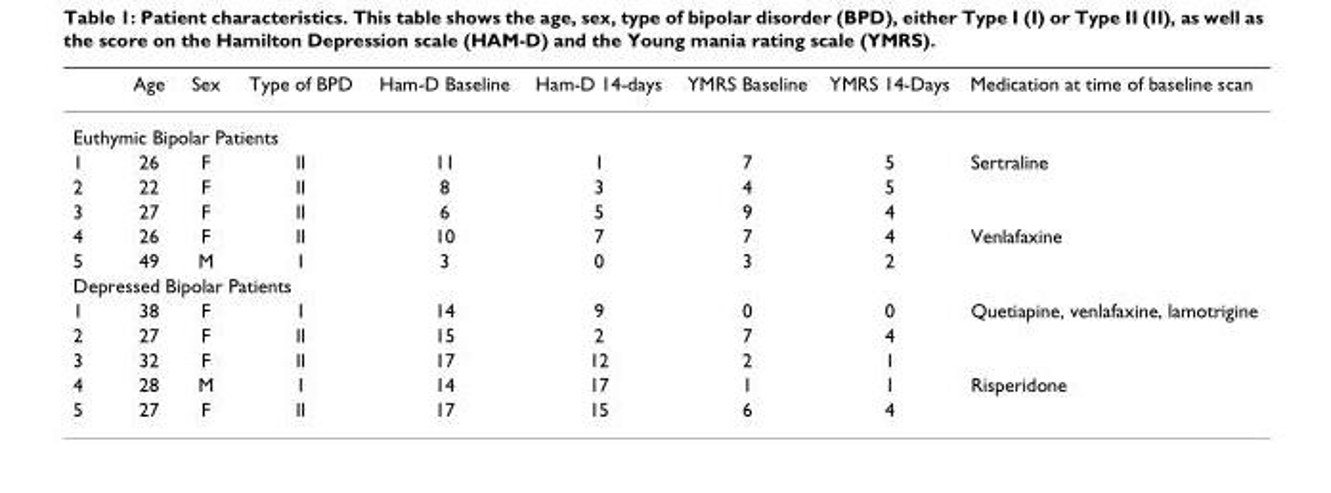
<table><thead><tr><td></td><td>Age</td><td>Sex</td><td>Type of BPD</td><td>Ham-D Baseline</td><td>Ham-D 14-days</td><td>YMRS Baseline</td><td>YMRS 14-Days</td><td>Medication at time of baseline scan</td></tr></thead><tbody><tr><td colspan="9">Euthymic Bipolar Patients</td></tr><tr><td>1</td><td>26</td><td>F</td><td>II</td><td>11</td><td>1</td><td>7</td><td>5</td><td>Sertraline</td></tr><tr><td>2</td><td>22</td><td>F</td><td>II</td><td>8</td><td>3</td><td>4</td><td>5</td><td></td></tr><tr><td>3</td><td>27</td><td>F</td><td>II</td><td>6</td><td>5</td><td>9</td><td>4</td><td></td></tr><tr><td>4</td><td>26</td><td>F</td><td>II</td><td>10</td><td>7</td><td>7</td><td>4</td><td>Venlafaxine</td></tr><tr><td>5</td><td>49</td><td>M</td><td>I</td><td>3</td><td>0</td><td>3</td><td>2</td><td></td></tr><tr><td colspan="9">Depressed Bipolar Patients</td></tr><tr><td>1</td><td>38</td><td>F</td><td>I</td><td>14</td><td>9</td><td>0</td><td>0</td><td>Quetiapine, venlafaxine, lamotrigine</td></tr><tr><td>2</td><td>27</td><td>F</td><td>II</td><td>15</td><td>2</td><td>7</td><td>4</td><td></td></tr><tr><td>3</td><td>32</td><td>F</td><td>II</td><td>17</td><td>12</td><td>2</td><td>1</td><td></td></tr><tr><td>4</td><td>28</td><td>M</td><td>I</td><td>14</td><td>17</td><td>1</td><td>1</td><td>Risperidone</td></tr><tr><td>5</td><td>27</td><td>F</td><td>II</td><td>17</td><td>15</td><td>6</td><td>4</td><td></td></tr></tbody></table>